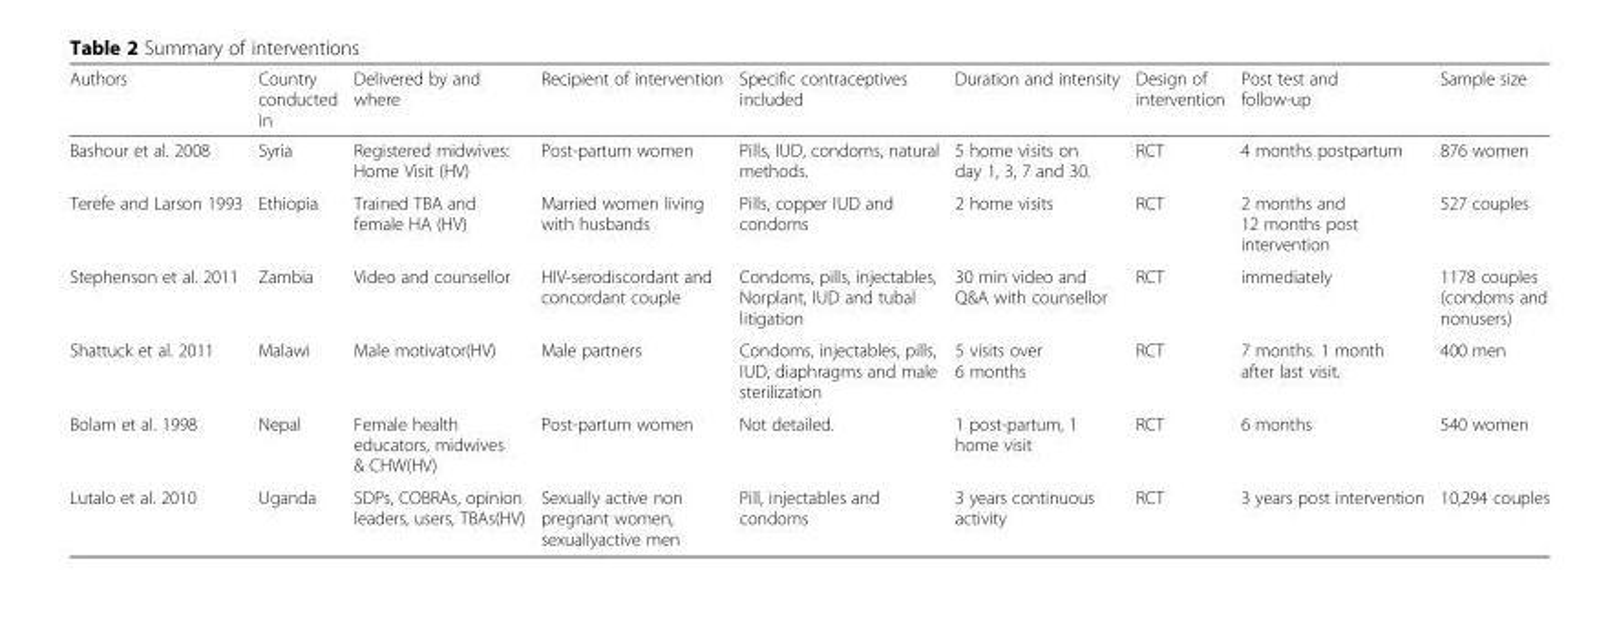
<table><thead><tr><td>Authors</td><td>Country conducted in</td><td>Delivered by and where</td><td>Recipient of intervention</td><td>Specific contraceptives included</td><td>Duration and intensity</td><td>Design of intervention</td><td>Post test and follow-up</td><td>Sample size</td></tr></thead><tbody><tr><td>Bashour et al. 2008</td><td>Syria</td><td>Registered midwives: Home Visit (HV)</td><td>Post-partum women</td><td>Pills, IUD, condoms, natural methods.</td><td>5 home visits on day 1, 3, 7 and 30.</td><td>RCT</td><td>4 months postpartum</td><td>876 women</td></tr><tr><td>Terefe and Larson 1993</td><td>Ethiopia</td><td>Trained TBA and female HA (HV)</td><td>Married women living with husbands</td><td>Pills, copper IUD and condoms</td><td>2 home visits</td><td>RCT</td><td>2 months and 12 months post intervention</td><td>527 couples</td></tr><tr><td>Stephenson et al. 2011</td><td>Zambia</td><td>Video and counsellor</td><td>HIV-serodiscordant and concordant couple</td><td>Condoms, pills, injectables, Norplant, IUD and tubal litigation</td><td>30 min video and Q&amp;A with counsellor</td><td>RCT</td><td>immediately</td><td>1178 couples (condoms and nonusers)</td></tr><tr><td>Shattuck et al. 2011</td><td>Malawi</td><td>Male motivator(HV)</td><td>Male partners</td><td>Condoms, injectables, pills, IUD, diaphragms and male sterilization</td><td>5 visits over 6 months</td><td>RCT</td><td>7 months. 1 month after last visit.</td><td>400 men</td></tr><tr><td>Bolam et al. 1998</td><td>Nepal</td><td>Female health educators, midwives &amp; CHW(HV)</td><td>Post-partum women</td><td>Not detailed.</td><td>1 post-partum, 1 home visit</td><td>RCT</td><td>6 months</td><td>540 women</td></tr><tr><td>Lutalo et al. 2010</td><td>Uganda</td><td>SDPs, COBRAs, opinion leaders, users, TBAs(HV)</td><td>Sexually active non pregnant women, sexuallyactive men</td><td>Pill, injectables and condoms</td><td>3 years continuous activity</td><td>RCT</td><td>3 years post intervention</td><td>10,294 couples</td></tr></tbody></table>